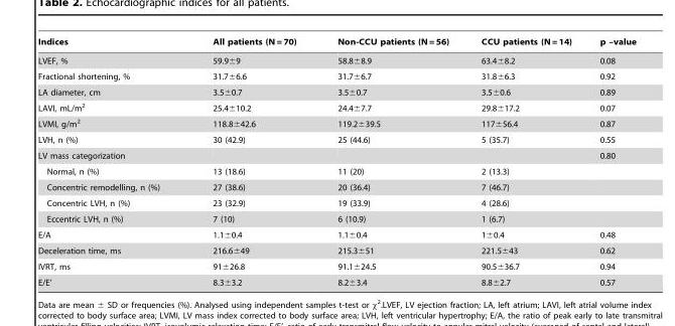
<table><thead><tr><td>Indices</td><td>All patients (N = 70)</td><td>Non-CCU patients (N = 56)</td><td>CCU patients (N = 14)</td><td>p –value</td></tr></thead><tbody><tr><td>LVEF, %</td><td>59.9±9</td><td>58.8±8.9</td><td>63.4±8.2</td><td>0.08</td></tr><tr><td>Fractional shortening, %</td><td>31.7±6.6</td><td>31.7±6.7</td><td>31.8±6.3</td><td>0.92</td></tr><tr><td>LA diameter, cm</td><td>3.5±0.7</td><td>3.5±0.7</td><td>3.5±0.6</td><td>0.89</td></tr><tr><td>LAVI, mL/m<sup>2</sup></td><td>25.4±10.2</td><td>24.4±7.7</td><td>29.8±17.2</td><td>0.07</td></tr><tr><td>LVMI, g/m<sup>2</sup></td><td>118.8±42.6</td><td>119.2±39.5</td><td>117±56.4</td><td>0.87</td></tr><tr><td>LVH, n (%)</td><td>30 (42.9)</td><td>25 (44.6)</td><td>5 (35.7)</td><td>0.55</td></tr><tr><td>LV mass categorization</td><td></td><td></td><td></td><td>0.80</td></tr><tr><td>Normal, n (%)</td><td>13 (18.6)</td><td>11 (20)</td><td>2 (13.3)</td><td></td></tr><tr><td>Concentric remodelling, n (%)</td><td>27 (38.6)</td><td>20 (36.4)</td><td>7 (46.7)</td><td></td></tr><tr><td>Concentric LVH, n (%)</td><td>23 (32.9)</td><td>19 (33.9)</td><td>4 (28.6)</td><td></td></tr><tr><td>Eccentric LVH, n (%)</td><td>7 (10)</td><td>6 (10.9)</td><td>1 (6.7)</td><td></td></tr><tr><td>E/A</td><td>1.1±0.4</td><td>1.1±0.4</td><td>1±0.4</td><td>0.48</td></tr><tr><td>Deceleration time, ms</td><td>216.6±49</td><td>215.3±51</td><td>221.5±43</td><td>0.62</td></tr><tr><td>IVRT, ms</td><td>91±26.8</td><td>91.1±24.5</td><td>90.5±36.7</td><td>0.94</td></tr><tr><td>E/E’</td><td>8.3±3.2</td><td>8.2±3.4</td><td>8.8±2.7</td><td>0.57</td></tr></tbody></table>